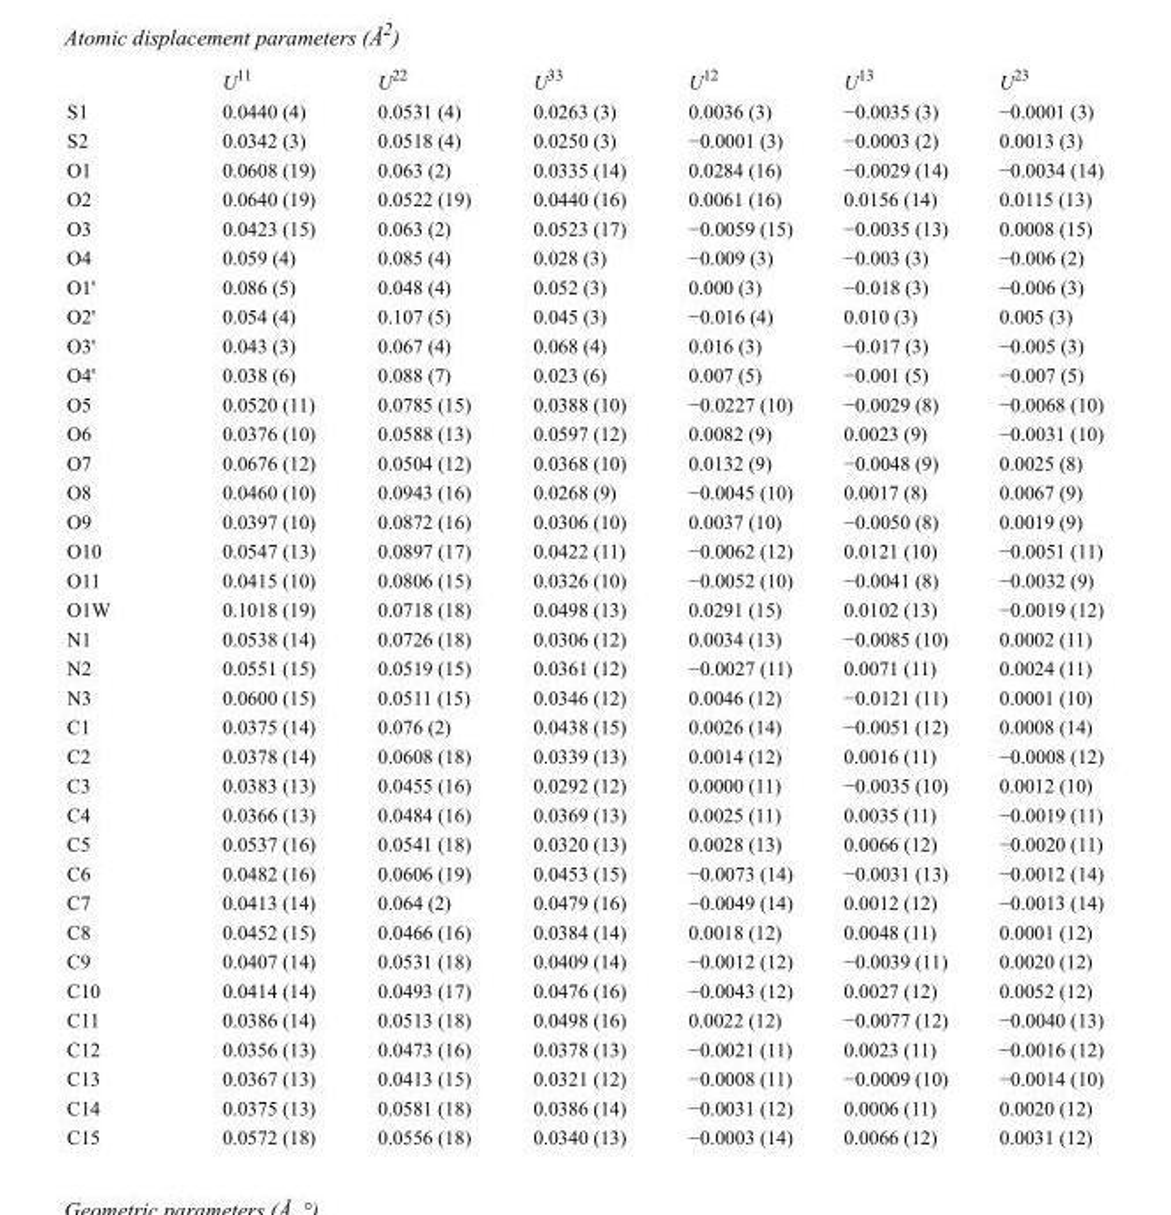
<table><thead><tr><td></td><td>U<sup>11</sup></td><td>U<sup>22</sup></td><td>U<sup>33</sup></td><td>U<sup>12</sup></td><td>U<sup>13</sup></td><td>U<sup>23</sup></td></tr></thead><tbody><tr><td>S1</td><td>0.0440 (4)</td><td>0.0531 (4)</td><td>0.0263 (3)</td><td>0.0036 (3)</td><td>−0.0035 (3)</td><td>−0.0001 (3)</td></tr><tr><td>S2</td><td>0.0342 (3)</td><td>0.0518 (4)</td><td>0.0250 (3)</td><td>−0.0001 (3)</td><td>−0.0003 (2)</td><td>0.0013 (3)</td></tr><tr><td>O1</td><td>0.0608 (19)</td><td>0.063 (2)</td><td>0.0335 (14)</td><td>0.0284 (16)</td><td>−0.0029 (14)</td><td>−0.0034 (14)</td></tr><tr><td>O2</td><td>0.0640 (19)</td><td>0.0522 (19)</td><td>0.0440 (16)</td><td>0.0061 (16)</td><td>0.0156 (14)</td><td>0.0115 (13)</td></tr><tr><td>O3</td><td>0.0423 (15)</td><td>0.063 (2)</td><td>0.0523 (17)</td><td>−0.0059 (15)</td><td>−0.0035 (13)</td><td>0.0008 (15)</td></tr><tr><td>O4</td><td>0.059 (4)</td><td>0.085 (4)</td><td>0.028 (3)</td><td>−0.009 (3)</td><td>−0.003 (3)</td><td>−0.006 (2)</td></tr><tr><td>O1&#x27;</td><td>0.086 (5)</td><td>0.048 (4)</td><td>0.052 (3)</td><td>0.000 (3)</td><td>−0.018 (3)</td><td>−0.006 (3)</td></tr><tr><td>O2&#x27;</td><td>0.054 (4)</td><td>0.107 (5)</td><td>0.045 (3)</td><td>−0.016 (4)</td><td>0.010 (3)</td><td>0.005 (3)</td></tr><tr><td>O3&#x27;</td><td>0.043 (3)</td><td>0.067 (4)</td><td>0.068 (4)</td><td>0.016 (3)</td><td>−0.017 (3)</td><td>−0.005 (3)</td></tr><tr><td>O4&#x27;</td><td>0.038 (6)</td><td>0.088 (7)</td><td>0.023 (6)</td><td>0.007 (5)</td><td>−0.001 (5)</td><td>−0.007 (5)</td></tr><tr><td>O5</td><td>0.0520 (11)</td><td>0.0785 (15)</td><td>0.0388 (10)</td><td>−0.0227 (10)</td><td>−0.0029 (8)</td><td>−0.0068 (10)</td></tr><tr><td>O6</td><td>0.0376 (10)</td><td>0.0588 (13)</td><td>0.0597 (12)</td><td>0.0082 (9)</td><td>0.0023 (9)</td><td>−0.0031 (10)</td></tr><tr><td>O7</td><td>0.0676 (12)</td><td>0.0504 (12)</td><td>0.0368 (10)</td><td>0.0132 (9)</td><td>−0.0048 (9)</td><td>0.0025 (8)</td></tr><tr><td>O8</td><td>0.0460 (10)</td><td>0.0943 (16)</td><td>0.0268 (9)</td><td>−0.0045 (10)</td><td>0.0017 (8)</td><td>0.0067 (9)</td></tr><tr><td>O9</td><td>0.0397 (10)</td><td>0.0872 (16)</td><td>0.0306 (10)</td><td>0.0037 (10)</td><td>−0.0050 (8)</td><td>0.0019 (9)</td></tr><tr><td>O10</td><td>0.0547 (13)</td><td>0.0897 (17)</td><td>0.0422 (11)</td><td>−0.0062 (12)</td><td>0.0121 (10)</td><td>−0.0051 (11)</td></tr><tr><td>O11</td><td>0.0415 (10)</td><td>0.0806 (15)</td><td>0.0326 (10)</td><td>−0.0052 (10)</td><td>−0.0041 (8)</td><td>−0.0032 (9)</td></tr><tr><td>O1W</td><td>0.1018 (19)</td><td>0.0718 (18)</td><td>0.0498 (13)</td><td>0.0291 (15)</td><td>0.0102 (13)</td><td>−0.0019 (12)</td></tr><tr><td>N1</td><td>0.0538 (14)</td><td>0.0726 (18)</td><td>0.0306 (12)</td><td>0.0034 (13)</td><td>−0.0085 (10)</td><td>0.0002 (11)</td></tr><tr><td>N2</td><td>0.0551 (15)</td><td>0.0519 (15)</td><td>0.0361 (12)</td><td>−0.0027 (11)</td><td>0.0071 (11)</td><td>0.0024 (11)</td></tr><tr><td>N3</td><td>0.0600 (15)</td><td>0.0511 (15)</td><td>0.0346 (12)</td><td>0.0046 (12)</td><td>−0.0121 (11)</td><td>0.0001 (10)</td></tr><tr><td>C1</td><td>0.0375 (14)</td><td>0.076 (2)</td><td>0.0438 (15)</td><td>0.0026 (14)</td><td>−0.0051 (12)</td><td>0.0008 (14)</td></tr><tr><td>C2</td><td>0.0378 (14)</td><td>0.0608 (18)</td><td>0.0339 (13)</td><td>0.0014 (12)</td><td>0.0016 (11)</td><td>−0.0008 (12)</td></tr><tr><td>C3</td><td>0.0383 (13)</td><td>0.0455 (16)</td><td>0.0292 (12)</td><td>0.0000 (11)</td><td>−0.0035 (10)</td><td>0.0012 (10)</td></tr><tr><td>C4</td><td>0.0366 (13)</td><td>0.0484 (16)</td><td>0.0369 (13)</td><td>0.0025 (11)</td><td>0.0035 (11)</td><td>−0.0019 (11)</td></tr><tr><td>C5</td><td>0.0537 (16)</td><td>0.0541 (18)</td><td>0.0320 (13)</td><td>0.0028 (13)</td><td>0.0066 (12)</td><td>−0.0020 (11)</td></tr><tr><td>C6</td><td>0.0482 (16)</td><td>0.0606 (19)</td><td>0.0453 (15)</td><td>−0.0073 (14)</td><td>−0.0031 (13)</td><td>−0.0012 (14)</td></tr><tr><td>C7</td><td>0.0413 (14)</td><td>0.064 (2)</td><td>0.0479 (16)</td><td>−0.0049 (14)</td><td>0.0012 (12)</td><td>−0.0013 (14)</td></tr><tr><td>C8</td><td>0.0452 (15)</td><td>0.0466 (16)</td><td>0.0384 (14)</td><td>0.0018 (12)</td><td>0.0048 (11)</td><td>0.0001 (12)</td></tr><tr><td>C9</td><td>0.0407 (14)</td><td>0.0531 (18)</td><td>0.0409 (14)</td><td>−0.0012 (12)</td><td>−0.0039 (11)</td><td>0.0020 (12)</td></tr><tr><td>C10</td><td>0.0414 (14)</td><td>0.0493 (17)</td><td>0.0476 (16)</td><td>−0.0043 (12)</td><td>0.0027 (12)</td><td>0.0052 (12)</td></tr><tr><td>C11</td><td>0.0386 (14)</td><td>0.0513 (18)</td><td>0.0498 (16)</td><td>0.0022 (12)</td><td>−0.0077 (12)</td><td>−0.0040 (13)</td></tr><tr><td>C12</td><td>0.0356 (13)</td><td>0.0473 (16)</td><td>0.0378 (13)</td><td>−0.0021 (11)</td><td>0.0023 (11)</td><td>−0.0016 (12)</td></tr><tr><td>C13</td><td>0.0367 (13)</td><td>0.0413 (15)</td><td>0.0321 (12)</td><td>−0.0008 (11)</td><td>−0.0009 (10)</td><td>−0.0014 (10)</td></tr><tr><td>C14</td><td>0.0375 (13)</td><td>0.0581 (18)</td><td>0.0386 (14)</td><td>−0.0031 (12)</td><td>0.0006 (11)</td><td>0.0020 (12)</td></tr><tr><td>C15</td><td>0.0572 (18)</td><td>0.0556 (18)</td><td>0.0340 (13)</td><td>−0.0003 (14)</td><td>0.0066 (12)</td><td>0.0031 (12)</td></tr></tbody></table>